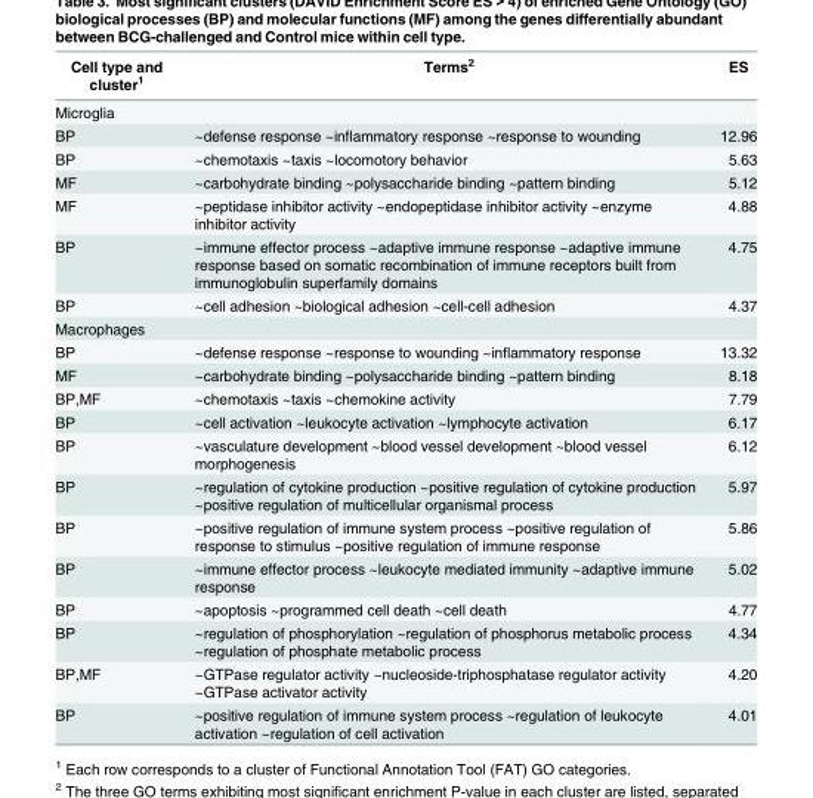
<table><thead><tr><td>Cell type and cluster<sup>1</sup></td><td>Terms<sup>2</sup></td><td>ES</td></tr></thead><tbody><tr><td colspan="3">Microglia</td></tr><tr><td>BP</td><td>~defense response ~inflammatory response ~response to wounding</td><td>12.96</td></tr><tr><td>BP</td><td>~chemotaxis ~taxis ~locomotory behavior</td><td>5.63</td></tr><tr><td>MF</td><td>~carbohydrate binding ~polysaccharide binding ~pattern binding</td><td>5.12</td></tr><tr><td>MF</td><td>~peptidase inhibitor activity ~endopeptidase inhibitor activity ~enzyme inhibitor activity</td><td>4.88</td></tr><tr><td>BP</td><td>~immune effector process ~adaptive immune response ~adaptive immune response based on somatic recombination of immune receptors built from immunoglobulin superfamily domains</td><td>4.75</td></tr><tr><td>BP</td><td>~cell adhesion ~biological adhesion ~cell-cell adhesion</td><td>4.37</td></tr><tr><td colspan="3">Macrophages</td></tr><tr><td>BP</td><td>~defense response ~response to wounding ~inflammatory response</td><td>13.32</td></tr><tr><td>MF</td><td>~carbohydrate binding ~polysaccharide binding ~pattern binding</td><td>8.18</td></tr><tr><td>BP,MF</td><td>~chemotaxis ~taxis ~chemokine activity</td><td>7.79</td></tr><tr><td>BP</td><td>~cell activation ~leukocyte activation ~lymphocyte activation</td><td>6.17</td></tr><tr><td>BP</td><td>~vasculature development ~blood vessel development ~blood vessel morphogenesis</td><td>6.12</td></tr><tr><td>BP</td><td>~regulation of cytokine production ~positive regulation of cytokine production ~positive regulation of multicellular organismal process</td><td>5.97</td></tr><tr><td>BP</td><td>~positive regulation of immune system process ~positive regulation of response to stimulus ~positive regulation of immune response</td><td>5.86</td></tr><tr><td>BP</td><td>~immune effector process ~leukocyte mediated immunity ~adaptive immune response</td><td>5.02</td></tr><tr><td>BP</td><td>~apoptosis ~programmed cell death ~cell death</td><td>4.77</td></tr><tr><td>BP</td><td>~regulation of phosphorylation ~regulation of phosphorus metabolic process ~regulation of phosphate metabolic process</td><td>4.34</td></tr><tr><td>BP,MF</td><td>~GTPase regulator activity ~nucleoside-triphosphatase regulator activity ~GTPase activator activity</td><td>4.20</td></tr><tr><td>BP</td><td>~positive regulation of immune system process ~regulation of leukocyte activation ~regulation of cell activation</td><td>4.01</td></tr></tbody></table>